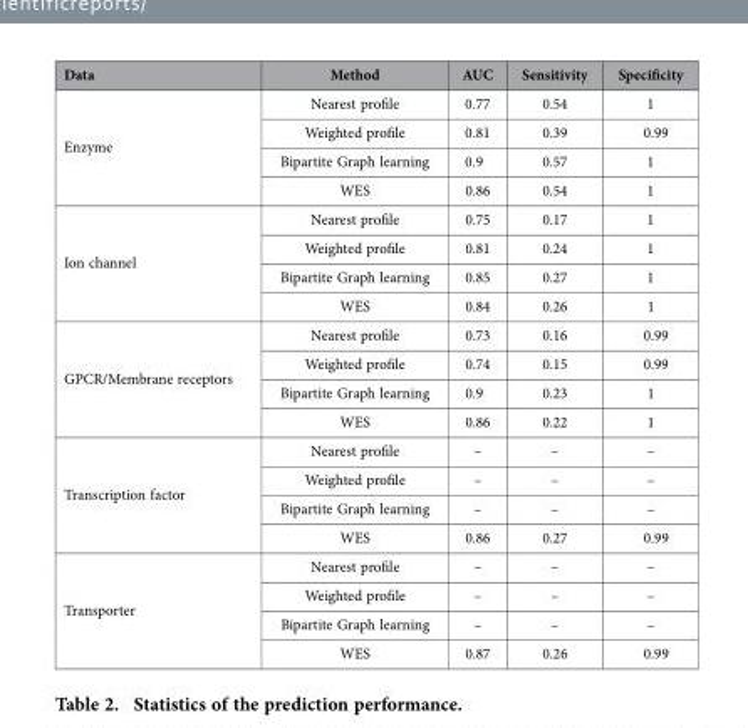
<table><thead><tr><td>Data</td><td>Method</td><td>AUC</td><td>Sensitivity</td><td>Specificity</td></tr></thead><tbody><tr><td rowspan="4">Enzyme</td><td>Nearest profile</td><td>0.77</td><td>0.54</td><td>1</td></tr><tr><td>Weighted profile</td><td>0.81</td><td>0.39</td><td>0.99</td></tr><tr><td>Bipartite Graph learning</td><td>0.9</td><td>0.57</td><td>1</td></tr><tr><td>WES</td><td>0.86</td><td>0.54</td><td>1</td></tr><tr><td rowspan="4">Ion channel</td><td>Nearest profile</td><td>0.75</td><td>0.17</td><td>1</td></tr><tr><td>Weighted profile</td><td>0.81</td><td>0.24</td><td>1</td></tr><tr><td>Bipartite Graph learning</td><td>0.85</td><td>0.27</td><td>1</td></tr><tr><td>WES</td><td>0.84</td><td>0.26</td><td>1</td></tr><tr><td rowspan="4">GPCR/Membrane receptors</td><td>Nearest profile</td><td>0.73</td><td>0.16</td><td>0.99</td></tr><tr><td>Weighted profile</td><td>0.74</td><td>0.15</td><td>0.99</td></tr><tr><td>Bipartite Graph learning</td><td>0.9</td><td>0.23</td><td>1</td></tr><tr><td>WES</td><td>0.86</td><td>0.22</td><td>1</td></tr><tr><td rowspan="4">Transcription factor</td><td>Nearest profile</td><td>–</td><td>–</td><td>–</td></tr><tr><td>Weighted profile</td><td>–</td><td>–</td><td>–</td></tr><tr><td>Bipartite Graph learning</td><td>–</td><td>–</td><td>–</td></tr><tr><td>WES</td><td>0.86</td><td>0.27</td><td>0.99</td></tr><tr><td rowspan="4">Transporter</td><td>Nearest profile</td><td>–</td><td>–</td><td>–</td></tr><tr><td>Weighted profile</td><td>–</td><td>–</td><td>–</td></tr><tr><td>Bipartite Graph learning</td><td>–</td><td>–</td><td>–</td></tr><tr><td>WES</td><td>0.87</td><td>0.26</td><td>0.99</td></tr></tbody></table>